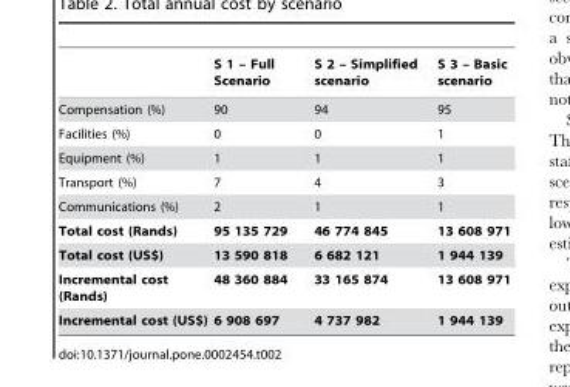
<table><thead><tr><td></td><td>S 1 – Full Scenario</td><td>S 2 – Simplified scenario</td><td>S 3 – Basic scenario</td></tr></thead><tbody><tr><td>Compensation (%)</td><td>90</td><td>94</td><td>95</td></tr><tr><td>Facilities (%)</td><td>0</td><td>0</td><td>1</td></tr><tr><td>Equipment (%)</td><td>1</td><td>1</td><td>1</td></tr><tr><td>Transport (%)</td><td>7</td><td>4</td><td>3</td></tr><tr><td>Communications (%)</td><td>2</td><td>1</td><td>1</td></tr><tr><td>Total cost (Rands)</td><td>95 135 729</td><td>46 774 845</td><td>13 608 971</td></tr><tr><td>Total cost (US$)</td><td>13 590 818</td><td>6 682 121</td><td>1 944 139</td></tr><tr><td>Incremental cost (Rands)</td><td>48 360 884</td><td>33 165 874</td><td>13 608 971</td></tr><tr><td>Incremental cost (US$)</td><td>6 908 697</td><td>4 737 982</td><td>1 944 139</td></tr></tbody></table>